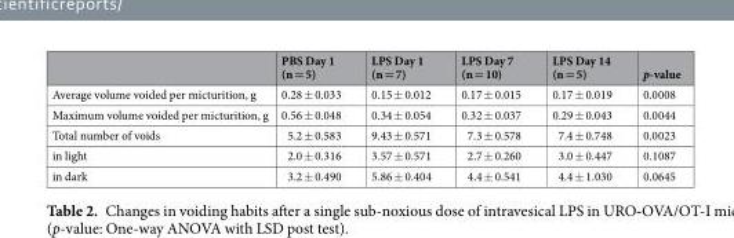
<table><thead><tr><td></td><td>PBS Day 1 (n = 5)</td><td>LPS Day 1 (n = 7)</td><td>LPS Day 7 (n = 10)</td><td>LPS Day 14 (n = 5)</td><td>p-value</td></tr></thead><tbody><tr><td>Average volume voided per micturition, g</td><td>0.28 ± 0.033</td><td>0.15 ± 0.012</td><td>0.17 ± 0.015</td><td>0.17 ± 0.019</td><td>0.0008</td></tr><tr><td>Maximum volume voided per micturition, g</td><td>0.56 ± 0.048</td><td>0.34 ± 0.054</td><td>0.32 ± 0.037</td><td>0.29 ± 0.043</td><td>0.0044</td></tr><tr><td>Total number of voids</td><td>5.2 ± 0.583</td><td>9.43 ± 0.571</td><td>7.3 ± 0.578</td><td>7.4 ± 0.748</td><td>0.0023</td></tr><tr><td>in light</td><td>2.0 ± 0.316</td><td>3.57 ± 0.571</td><td>2.7 ± 0.260</td><td>3.0 ± 0.447</td><td>0.1087</td></tr><tr><td>in dark</td><td>3.2 ± 0.490</td><td>5.86 ± 0.404</td><td>4.4 ± 0.541</td><td>4.4 ± 1.030</td><td>0.0645</td></tr></tbody></table>